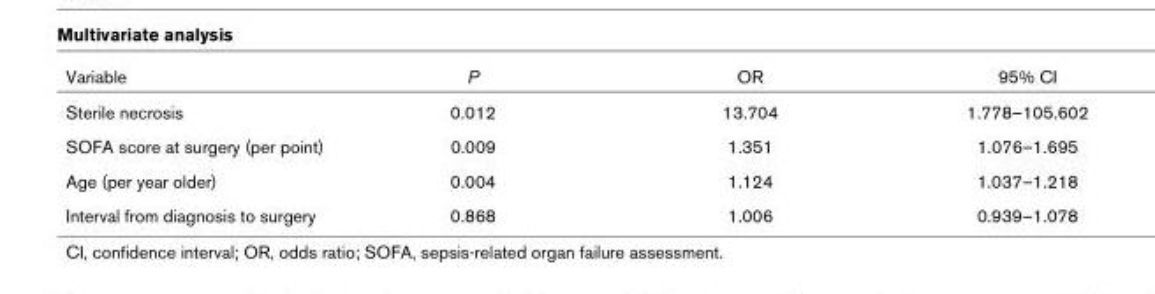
<table><thead><tr><td>Variable</td><td>P</td><td>OR</td><td>95% CI</td></tr></thead><tbody><tr><td>Sterile necrosis</td><td>0.012</td><td>13.704</td><td>1.778–105.602</td></tr><tr><td>SOFA score at surgery (per point)</td><td>0.009</td><td>1.351</td><td>1.076–1.695</td></tr><tr><td>Age (per year older)</td><td>0.004</td><td>1.124</td><td>1.037–1.218</td></tr><tr><td>Interval from diagnosis to surgery</td><td>0.868</td><td>1.006</td><td>0.939–1.078</td></tr></tbody></table>